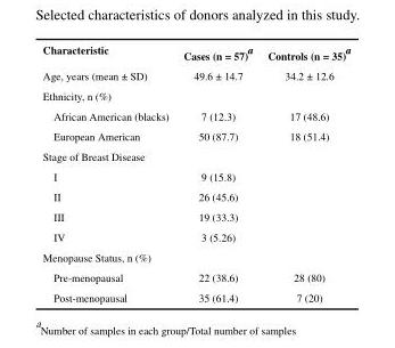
<table><thead><tr><td>Characteristic</td><td>Cases (n = 57)<sup>a</sup></td><td>Controls (n = 35)<sup>a</sup></td></tr></thead><tbody><tr><td>Age, years (mean ± SD)</td><td>49.6 ± 14.7</td><td>34.2 ± 12.6</td></tr><tr><td colspan="3">Ethnicity, n (%)</td></tr><tr><td>African American (blacks)</td><td>7 (12.3)</td><td>17 (48.6)</td></tr><tr><td>European American</td><td>50 (87.7)</td><td>18 (51.4)</td></tr><tr><td colspan="3">Stage of Breast Disease</td></tr><tr><td>I</td><td>9 (15.8)</td><td></td></tr><tr><td>II</td><td>26 (45.6)</td><td></td></tr><tr><td>III</td><td>19 (33.3)</td><td></td></tr><tr><td>IV</td><td>3 (5.26)</td><td></td></tr><tr><td colspan="3">Menopause Status, n (%)</td></tr><tr><td>Pre-menopausal</td><td>22 (38.6)</td><td>28 (80)</td></tr><tr><td>Post-menopausal</td><td>35 (61.4)</td><td>7 (20)</td></tr></tbody></table>